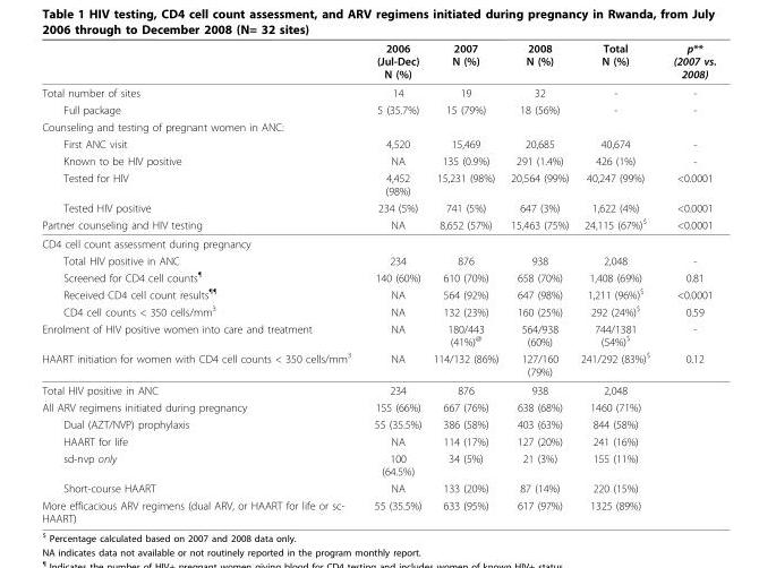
<table><thead><tr><td></td><td>2006 (Jul-Dec) N (%)</td><td>2007 N (%)</td><td>2008 N (%)</td><td>Total N (%)</td><td>p** (2007 vs. 2008)</td></tr></thead><tbody><tr><td>Total number of sites</td><td>14</td><td>19</td><td>32</td><td>-</td><td>-</td></tr><tr><td>Full package</td><td>5 (35.7%)</td><td>15 (79%)</td><td>18 (56%)</td><td>-</td><td>-</td></tr><tr><td colspan="6">Counseling and testing of pregnant women in ANC:</td></tr><tr><td>First ANC visit</td><td>4,520</td><td>15,469</td><td>20,685</td><td>40,674</td><td>-</td></tr><tr><td>Known to be HIV positive</td><td>NA</td><td>135 (0.9%)</td><td>291 (1.4%)</td><td>426 (1%)</td><td>-</td></tr><tr><td>Tested for HIV</td><td>4,452 (98%)</td><td>15,231 (98%)</td><td>20,564 (99%)</td><td>40,247 (99%)</td><td>&lt;0.0001</td></tr><tr><td>Tested HIV positive</td><td>234 (5%)</td><td>741 (5%)</td><td>647 (3%)</td><td>1,622 (4%)</td><td>&lt;0.0001</td></tr><tr><td>Partner counseling and HIV testing</td><td>NA</td><td>8,652 (57%)</td><td>15,463 (75%)</td><td>24,115 (67%)<sup>$</sup></td><td>&lt;0.0001</td></tr><tr><td colspan="6">CD4 cell count assessment during pregnancy</td></tr><tr><td>Total HIV positive in ANC</td><td>234</td><td>876</td><td>938</td><td>2,048</td><td>-</td></tr><tr><td>Screened for CD4 cell counts<sup>¶</sup></td><td>140 (60%)</td><td>610 (70%)</td><td>658 (70%)</td><td>1,408 (69%)</td><td>0.81</td></tr><tr><td>Received CD4 cell count results<sup>¶¶</sup></td><td>NA</td><td>564 (92%)</td><td>647 (98%)</td><td>1,211 (96%)<sup>$</sup></td><td>&lt;0.0001</td></tr><tr><td>CD4 cell counts &lt; 350 cells/mm<sup>3</sup></td><td>NA</td><td>132 (23%)</td><td>160 (25%)</td><td>292 (24%)<sup>$</sup></td><td>0.59</td></tr><tr><td>Enrolment of HIV positive women into care and treatment</td><td>NA</td><td>180/443 (41%)<sup>@</sup></td><td>564/938 (60%)</td><td>744/1381 (54%)<sup>$</sup></td><td>-</td></tr><tr><td>HAART initiation for women with CD4 cell counts &lt; 350 cells/mm<sup>3</sup></td><td>NA</td><td>114/132 (86%)</td><td>127/160 (79%)</td><td>241/292 (83%)<sup>$</sup></td><td>0.12</td></tr><tr><td>Total HIV positive in ANC</td><td>234</td><td>876</td><td>938</td><td>2,048</td><td></td></tr><tr><td>All ARV regimens initiated during pregnancy</td><td>155 (66%)</td><td>667 (76%)</td><td>638 (68%)</td><td>1460 (71%)</td><td></td></tr><tr><td>Dual (AZT/NVP) prophylaxis</td><td>55 (35.5%)</td><td>386 (58%)</td><td>403 (63%)</td><td>844 (58%)</td><td></td></tr><tr><td>HAART for life</td><td>NA</td><td>114 (17%)</td><td>127 (20%)</td><td>241 (16%)</td><td></td></tr><tr><td>sd-nvp only</td><td>100 (64.5%)</td><td>34 (5%)</td><td>21 (3%)</td><td>155 (11%)</td><td></td></tr><tr><td>Short-course HAART</td><td>NA</td><td>133 (20%)</td><td>87 (14%)</td><td>220 (15%)</td><td></td></tr><tr><td>More efficacious ARV regimens (dual ARV, or HAART for life or sc- HAART)</td><td>55 (35.5%)</td><td>633 (95%)</td><td>617 (97%)</td><td>1325 (89%)</td><td></td></tr></tbody></table>